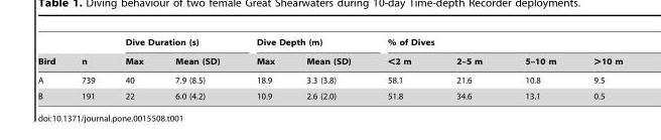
<table><thead><tr><td rowspan="2">Bird</td><td rowspan="2">n</td><td colspan="2">Dive Duration (s)</td><td colspan="2">Dive Depth (m)</td><td colspan="4">% of Dives</td></tr><tr><td>Max</td><td>Mean (SD)</td><td>Max</td><td>Mean (SD)</td><td>&lt;2 m</td><td>2–5 m</td><td>5–10 m</td><td>&gt;10 m</td></tr></thead><tbody><tr><td>A</td><td>739</td><td>40</td><td>7.9 (8.5)</td><td>18.9</td><td>3.3 (3.8)</td><td>58.1</td><td>21.6</td><td>10.8</td><td>9.5</td></tr><tr><td>B</td><td>191</td><td>22</td><td>6.0 (4.2)</td><td>10.9</td><td>2.6 (2.0)</td><td>51.8</td><td>34.6</td><td>13.1</td><td>0.5</td></tr></tbody></table>